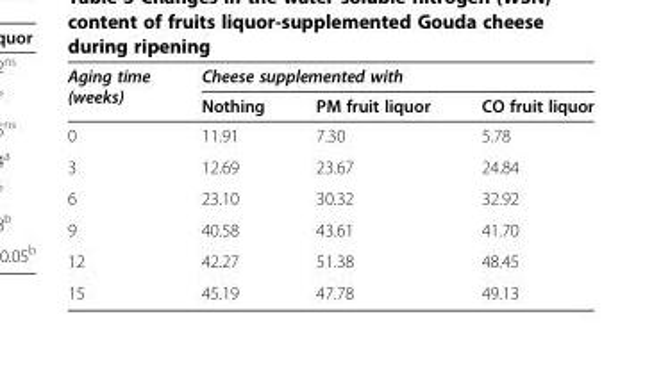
<table><thead><tr><td rowspan="2">Aging time (weeks)</td><td colspan="3">Cheese supplemented with</td></tr><tr><td>Nothing</td><td>PM fruit liquor</td><td>CO fruit liquor</td></tr></thead><tbody><tr><td>0</td><td>11.91</td><td>7.30</td><td>5.78</td></tr><tr><td>3</td><td>12.69</td><td>23.67</td><td>24.84</td></tr><tr><td>6</td><td>23.10</td><td>30.32</td><td>32.92</td></tr><tr><td>9</td><td>40.58</td><td>43.61</td><td>41.70</td></tr><tr><td>12</td><td>42.27</td><td>51.38</td><td>48.45</td></tr><tr><td>15</td><td>45.19</td><td>47.78</td><td>49.13</td></tr></tbody></table>